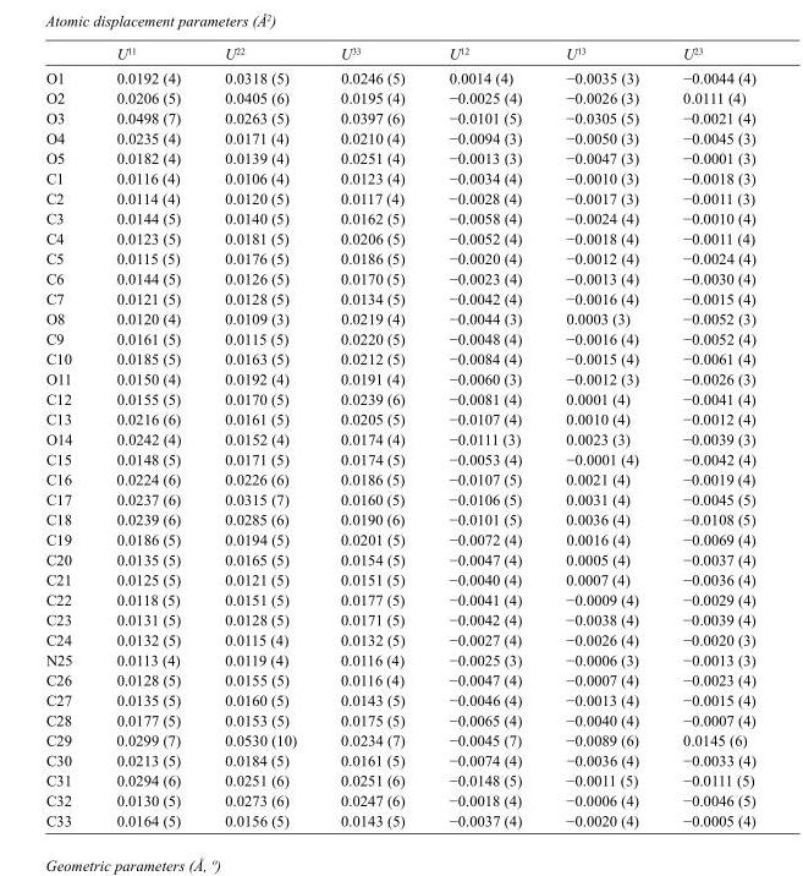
<table><thead><tr><td></td><td>U<sup>11</sup></td><td>U<sup>22</sup></td><td>U<sup>33</sup></td><td>U<sup>12</sup></td><td>U<sup>13</sup></td><td>U<sup>23</sup></td></tr></thead><tbody><tr><td>O1</td><td>0.0192 (4)</td><td>0.0318 (5)</td><td>0.0246 (5)</td><td>0.0014 (4)</td><td>−0.0035 (3)</td><td>−0.0044 (4)</td></tr><tr><td>O2</td><td>0.0206 (5)</td><td>0.0405 (6)</td><td>0.0195 (4)</td><td>−0.0025 (4)</td><td>−0.0026 (3)</td><td>0.0111 (4)</td></tr><tr><td>O3</td><td>0.0498 (7)</td><td>0.0263 (5)</td><td>0.0397 (6)</td><td>−0.0101 (5)</td><td>−0.0305 (5)</td><td>−0.0021 (4)</td></tr><tr><td>O4</td><td>0.0235 (4)</td><td>0.0171 (4)</td><td>0.0210 (4)</td><td>−0.0094 (3)</td><td>−0.0050 (3)</td><td>−0.0045 (3)</td></tr><tr><td>O5</td><td>0.0182 (4)</td><td>0.0139 (4)</td><td>0.0251 (4)</td><td>−0.0013 (3)</td><td>−0.0047 (3)</td><td>−0.0001 (3)</td></tr><tr><td>C1</td><td>0.0116 (4)</td><td>0.0106 (4)</td><td>0.0123 (4)</td><td>−0.0034 (4)</td><td>−0.0010 (3)</td><td>−0.0018 (3)</td></tr><tr><td>C2</td><td>0.0114 (4)</td><td>0.0120 (5)</td><td>0.0117 (4)</td><td>−0.0028 (4)</td><td>−0.0017 (3)</td><td>−0.0011 (3)</td></tr><tr><td>C3</td><td>0.0144 (5)</td><td>0.0140 (5)</td><td>0.0162 (5)</td><td>−0.0058 (4)</td><td>−0.0024 (4)</td><td>−0.0010 (4)</td></tr><tr><td>C4</td><td>0.0123 (5)</td><td>0.0181 (5)</td><td>0.0206 (5)</td><td>−0.0052 (4)</td><td>−0.0018 (4)</td><td>−0.0011 (4)</td></tr><tr><td>C5</td><td>0.0115 (5)</td><td>0.0176 (5)</td><td>0.0186 (5)</td><td>−0.0020 (4)</td><td>−0.0012 (4)</td><td>−0.0024 (4)</td></tr><tr><td>C6</td><td>0.0144 (5)</td><td>0.0126 (5)</td><td>0.0170 (5)</td><td>−0.0023 (4)</td><td>−0.0013 (4)</td><td>−0.0030 (4)</td></tr><tr><td>C7</td><td>0.0121 (5)</td><td>0.0128 (5)</td><td>0.0134 (5)</td><td>−0.0042 (4)</td><td>−0.0016 (4)</td><td>−0.0015 (4)</td></tr><tr><td>O8</td><td>0.0120 (4)</td><td>0.0109 (3)</td><td>0.0219 (4)</td><td>−0.0044 (3)</td><td>0.0003 (3)</td><td>−0.0052 (3)</td></tr><tr><td>C9</td><td>0.0161 (5)</td><td>0.0115 (5)</td><td>0.0220 (5)</td><td>−0.0048 (4)</td><td>−0.0016 (4)</td><td>−0.0052 (4)</td></tr><tr><td>C10</td><td>0.0185 (5)</td><td>0.0163 (5)</td><td>0.0212 (5)</td><td>−0.0084 (4)</td><td>−0.0015 (4)</td><td>−0.0061 (4)</td></tr><tr><td>O11</td><td>0.0150 (4)</td><td>0.0192 (4)</td><td>0.0191 (4)</td><td>−0.0060 (3)</td><td>−0.0012 (3)</td><td>−0.0026 (3)</td></tr><tr><td>C12</td><td>0.0155 (5)</td><td>0.0170 (5)</td><td>0.0239 (6)</td><td>−0.0081 (4)</td><td>0.0001 (4)</td><td>−0.0041 (4)</td></tr><tr><td>C13</td><td>0.0216 (6)</td><td>0.0161 (5)</td><td>0.0205 (5)</td><td>−0.0107 (4)</td><td>0.0010 (4)</td><td>−0.0012 (4)</td></tr><tr><td>O14</td><td>0.0242 (4)</td><td>0.0152 (4)</td><td>0.0174 (4)</td><td>−0.0111 (3)</td><td>0.0023 (3)</td><td>−0.0039 (3)</td></tr><tr><td>C15</td><td>0.0148 (5)</td><td>0.0171 (5)</td><td>0.0174 (5)</td><td>−0.0053 (4)</td><td>−0.0001 (4)</td><td>−0.0042 (4)</td></tr><tr><td>C16</td><td>0.0224 (6)</td><td>0.0226 (6)</td><td>0.0186 (5)</td><td>−0.0107 (5)</td><td>0.0021 (4)</td><td>−0.0019 (4)</td></tr><tr><td>C17</td><td>0.0237 (6)</td><td>0.0315 (7)</td><td>0.0160 (5)</td><td>−0.0106 (5)</td><td>0.0031 (4)</td><td>−0.0045 (5)</td></tr><tr><td>C18</td><td>0.0239 (6)</td><td>0.0285 (6)</td><td>0.0190 (6)</td><td>−0.0101 (5)</td><td>0.0036 (4)</td><td>−0.0108 (5)</td></tr><tr><td>C19</td><td>0.0186 (5)</td><td>0.0194 (5)</td><td>0.0201 (5)</td><td>−0.0072 (4)</td><td>0.0016 (4)</td><td>−0.0069 (4)</td></tr><tr><td>C20</td><td>0.0135 (5)</td><td>0.0165 (5)</td><td>0.0154 (5)</td><td>−0.0047 (4)</td><td>0.0005 (4)</td><td>−0.0037 (4)</td></tr><tr><td>C21</td><td>0.0125 (5)</td><td>0.0121 (5)</td><td>0.0151 (5)</td><td>−0.0040 (4)</td><td>0.0007 (4)</td><td>−0.0036 (4)</td></tr><tr><td>C22</td><td>0.0118 (5)</td><td>0.0151 (5)</td><td>0.0177 (5)</td><td>−0.0041 (4)</td><td>−0.0009 (4)</td><td>−0.0029 (4)</td></tr><tr><td>C23</td><td>0.0131 (5)</td><td>0.0128 (5)</td><td>0.0171 (5)</td><td>−0.0042 (4)</td><td>−0.0038 (4)</td><td>−0.0039 (4)</td></tr><tr><td>C24</td><td>0.0132 (5)</td><td>0.0115 (4)</td><td>0.0132 (5)</td><td>−0.0027 (4)</td><td>−0.0026 (4)</td><td>−0.0020 (3)</td></tr><tr><td>N25</td><td>0.0113 (4)</td><td>0.0119 (4)</td><td>0.0116 (4)</td><td>−0.0025 (3)</td><td>−0.0006 (3)</td><td>−0.0013 (3)</td></tr><tr><td>C26</td><td>0.0128 (5)</td><td>0.0155 (5)</td><td>0.0116 (4)</td><td>−0.0047 (4)</td><td>−0.0007 (4)</td><td>−0.0023 (4)</td></tr><tr><td>C27</td><td>0.0135 (5)</td><td>0.0160 (5)</td><td>0.0143 (5)</td><td>−0.0046 (4)</td><td>−0.0013 (4)</td><td>−0.0015 (4)</td></tr><tr><td>C28</td><td>0.0177 (5)</td><td>0.0153 (5)</td><td>0.0175 (5)</td><td>−0.0065 (4)</td><td>−0.0040 (4)</td><td>−0.0007 (4)</td></tr><tr><td>C29</td><td>0.0299 (7)</td><td>0.0530 (10)</td><td>0.0234 (7)</td><td>−0.0045 (7)</td><td>−0.0089 (6)</td><td>0.0145 (6)</td></tr><tr><td>C30</td><td>0.0213 (5)</td><td>0.0184 (5)</td><td>0.0161 (5)</td><td>−0.0074 (4)</td><td>−0.0036 (4)</td><td>−0.0033 (4)</td></tr><tr><td>C31</td><td>0.0294 (6)</td><td>0.0251 (6)</td><td>0.0251 (6)</td><td>−0.0148 (5)</td><td>−0.0011 (5)</td><td>−0.0111 (5)</td></tr><tr><td>C32</td><td>0.0130 (5)</td><td>0.0273 (6)</td><td>0.0247 (6)</td><td>−0.0018 (4)</td><td>−0.0006 (4)</td><td>−0.0046 (5)</td></tr><tr><td>C33</td><td>0.0164 (5)</td><td>0.0156 (5)</td><td>0.0143 (5)</td><td>−0.0037 (4)</td><td>−0.0020 (4)</td><td>−0.0005 (4)</td></tr></tbody></table>